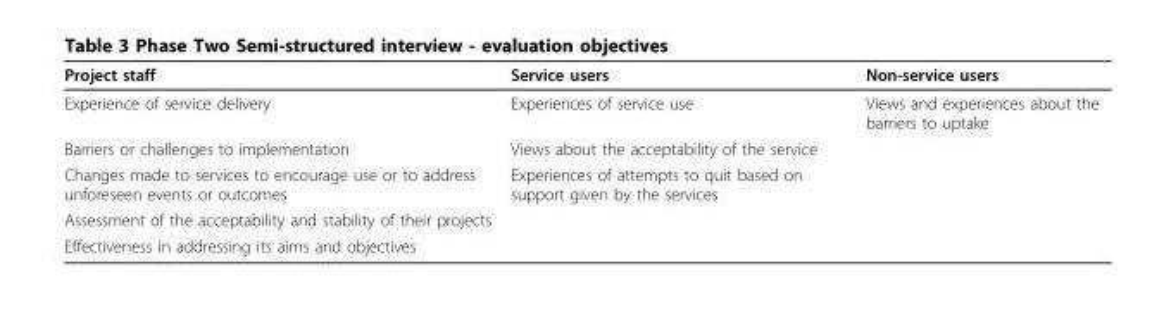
<table><thead><tr><td>Project staff</td><td>Service users</td><td>Non-service users</td></tr></thead><tbody><tr><td>Experience of service delivery</td><td>Experiences of service use</td><td>Views and experiences about the barriers to uptake</td></tr><tr><td>Barriers or challenges to implementation</td><td>Views about the acceptability of the service</td><td></td></tr><tr><td>Changes made to services to encourage use or to address unforeseen events or outcomes</td><td>Experiences of attempts to quit based on support given by the services</td><td></td></tr><tr><td colspan="3">Assessment of the acceptability and stability of their projects</td></tr><tr><td>Effectiveness in addressing its aims and objectives</td><td></td><td></td></tr></tbody></table>